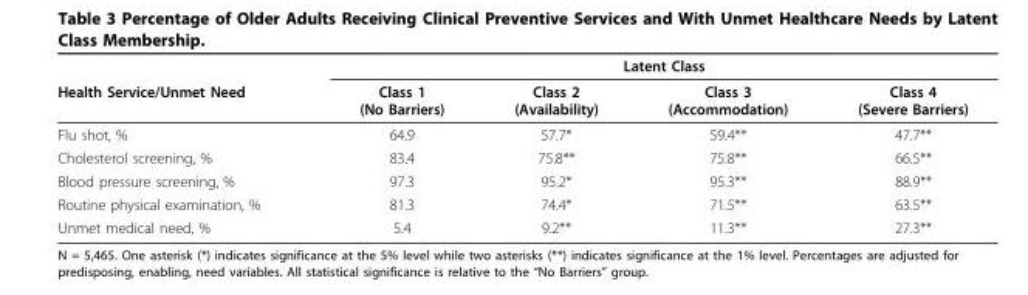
<table><thead><tr><td rowspan="2">Health Service/Unmet Need</td><td colspan="4">Latent Class</td></tr><tr><td>Class 1 (No Barriers)</td><td>Class 2 (Availability)</td><td>Class 3 (Accommodation)</td><td>Class 4 (Severe Barriers)</td></tr></thead><tbody><tr><td>Flu shot, %</td><td>64.9</td><td>57.7*</td><td>59.4**</td><td>47.7**</td></tr><tr><td>Cholesterol screening, %</td><td>83.4</td><td>75.8**</td><td>75.8**</td><td>66.5**</td></tr><tr><td>Blood pressure screening, %</td><td>97.3</td><td>95.2*</td><td>95.3**</td><td>88.9**</td></tr><tr><td>Routine physical examination, %</td><td>81.3</td><td>74.4*</td><td>71.5**</td><td>63.5**</td></tr><tr><td>Unmet medical need, %</td><td>5.4</td><td>9.2**</td><td>11.3**</td><td>27.3**</td></tr></tbody></table>